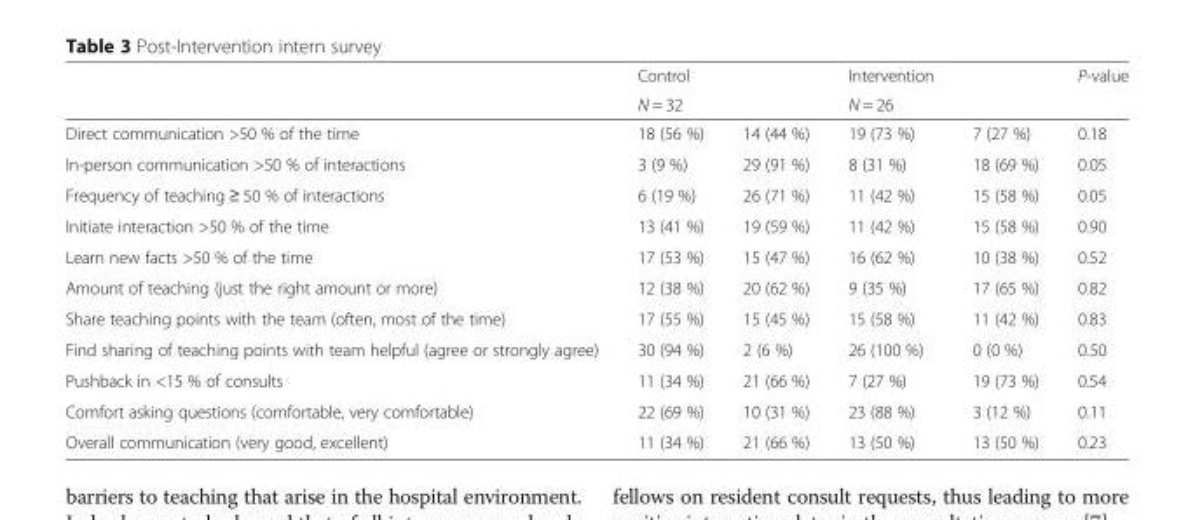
<table><thead><tr><td rowspan="2"></td><td>Control</td><td></td><td>Intervention</td><td></td><td rowspan="2">P-value</td></tr><tr><td colspan="2">N = 32</td><td colspan="2">N = 26</td></tr></thead><tbody><tr><td>Direct communication &gt;50 % of the time</td><td>18 (56 %)</td><td>14 (44 %)</td><td>19 (73 %)</td><td>7 (27 %)</td><td>0.18</td></tr><tr><td>In-person communication &gt;50 % of interactions</td><td>3 (9 %)</td><td>29 (91 %)</td><td>8 (31 %)</td><td>18 (69 %)</td><td>0.05</td></tr><tr><td>Frequency of teaching ≥ 50 % of interactions</td><td>6 (19 %)</td><td>26 (71 %)</td><td>11 (42 %)</td><td>15 (58 %)</td><td>0.05</td></tr><tr><td>Initiate interaction &gt;50 % of the time</td><td>13 (41 %)</td><td>19 (59 %)</td><td>11 (42 %)</td><td>15 (58 %)</td><td>0.90</td></tr><tr><td>Learn new facts &gt;50 % of the time</td><td>17 (53 %)</td><td>15 (47 %)</td><td>16 (62 %)</td><td>10 (38 %)</td><td>0.52</td></tr><tr><td>Amount of teaching (just the right amount or more)</td><td>12 (38 %)</td><td>20 (62 %)</td><td>9 (35 %)</td><td>17 (65 %)</td><td>0.82</td></tr><tr><td>Share teaching points with the team (often, most of the time)</td><td>17 (55 %)</td><td>15 (45 %)</td><td>15 (58 %)</td><td>11 (42 %)</td><td>0.83</td></tr><tr><td>Find sharing of teaching points with team helpful (agree or strongly agree)</td><td>30 (94 %)</td><td>2 (6 %)</td><td>26 (100 %)</td><td>0 (0 %)</td><td>0.50</td></tr><tr><td>Pushback in &lt;15 % of consults</td><td>11 (34 %)</td><td>21 (66 %)</td><td>7 (27 %)</td><td>19 (73 %)</td><td>0.54</td></tr><tr><td>Comfort asking questions (comfortable, very comfortable)</td><td>22 (69 %)</td><td>10 (31 %)</td><td>23 (88 %)</td><td>3 (12 %)</td><td>0.11</td></tr><tr><td>Overall communication (very good, excellent)</td><td>11 (34 %)</td><td>21 (66 %)</td><td>13 (50 %)</td><td>13 (50 %)</td><td>0.23</td></tr></tbody></table>